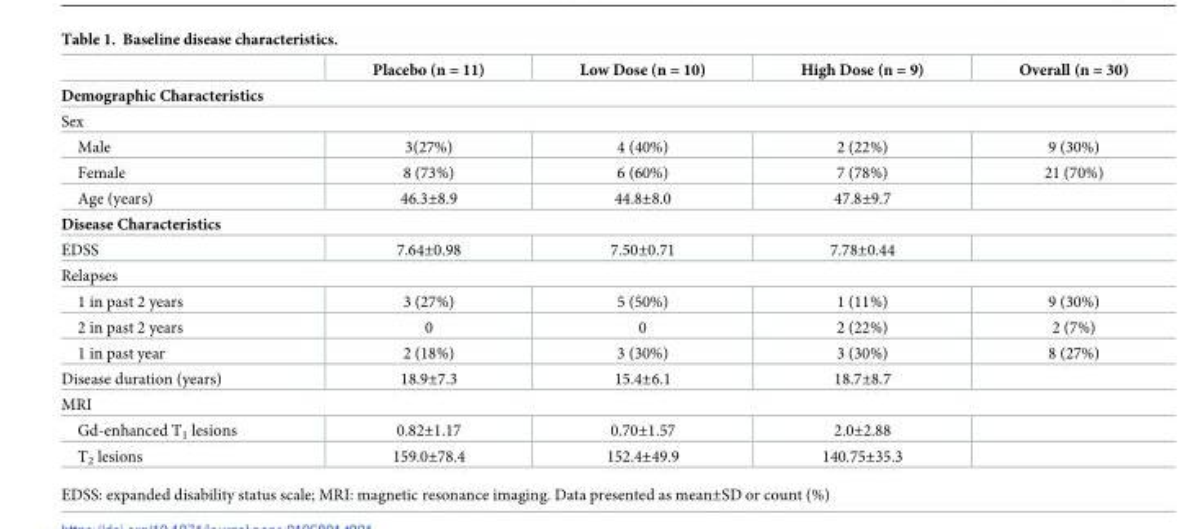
<table><thead><tr><td></td><td>Placebo (n = 11)</td><td>Low Dose (n = 10)</td><td>High Dose (n = 9)</td><td>Overall (n = 30)</td></tr></thead><tbody><tr><td colspan="5">Demographic Characteristics</td></tr><tr><td colspan="5">Sex</td></tr><tr><td>Male</td><td>3(27%)</td><td>4 (40%)</td><td>2 (22%)</td><td>9 (30%)</td></tr><tr><td>Female</td><td>8 (73%)</td><td>6 (60%)</td><td>7 (78%)</td><td>21 (70%)</td></tr><tr><td>Age (years)</td><td>46.3±8.9</td><td>44.8±8.0</td><td>47.8±9.7</td><td></td></tr><tr><td colspan="5">Disease Characteristics</td></tr><tr><td>EDSS</td><td>7.64±0.98</td><td>7.50±0.71</td><td>7.78±0.44</td><td></td></tr><tr><td colspan="5">Relapses</td></tr><tr><td>1 in past 2 years</td><td>3 (27%)</td><td>5 (50%)</td><td>1 (11%)</td><td>9 (30%)</td></tr><tr><td>2 in past 2 years</td><td>0</td><td>0</td><td>2 (22%)</td><td>2 (7%)</td></tr><tr><td>1 in past year</td><td>2 (18%)</td><td>3 (30%)</td><td>3 (30%)</td><td>8 (27%)</td></tr><tr><td>Disease duration (years)</td><td>18.9±7.3</td><td>15.4±6.1</td><td>18.7±8.7</td><td></td></tr><tr><td colspan="5">MRI</td></tr><tr><td>Gd-enhanced T<sub>1</sub> lesions</td><td>0.82±1.17</td><td>0.70±1.57</td><td>2.0±2.88</td><td></td></tr><tr><td>T<sub>2</sub> lesions</td><td>159.0±78.4</td><td>152.4±49.9</td><td>140.75±35.3</td><td></td></tr></tbody></table>